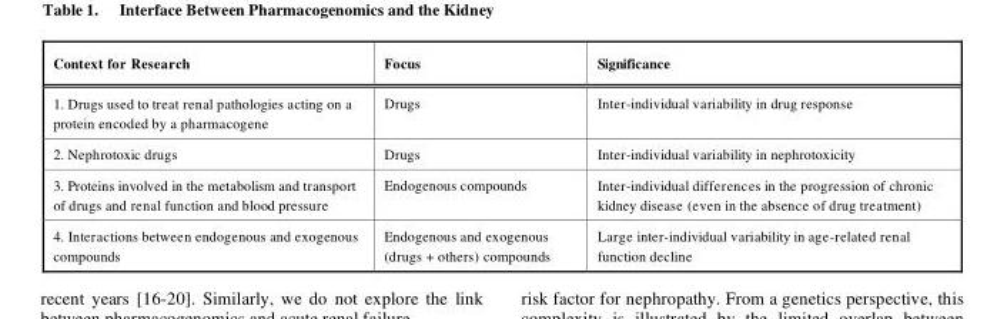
<table><thead><tr><td>Context for Research</td><td>Focus</td><td>Significance</td></tr></thead><tbody><tr><td>1. Drugs used to treat renal pathologies acting on a protein encoded by a pharmacogene</td><td>Drugs</td><td>Inter-individual variability in drug response</td></tr><tr><td>2. Nephrotoxic drugs</td><td>Drugs</td><td>Inter-individual variability in nephrotoxicity</td></tr><tr><td>3. Proteins involved in the metabolism and transport of drugs and renal function and blood pressure</td><td>Endogenous compounds</td><td>Inter-individual differences in the progression of chronic kidney disease (even in the absence of drug treatment)</td></tr><tr><td>4. Interactions between endogenous and exogenous compounds</td><td>Endogenous and exogenous (drugs + others) compounds</td><td>Large inter-individual variability in age-related renal function decline</td></tr></tbody></table>